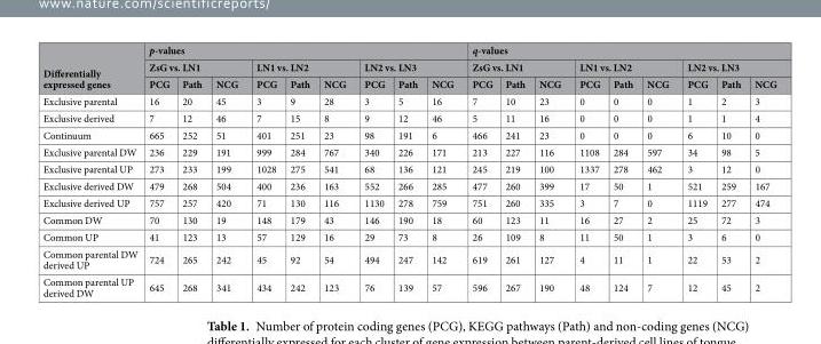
<table><thead><tr><td rowspan="3">Differentially expressed genes</td><td colspan="9">p-values</td><td colspan="9">q-values</td></tr><tr><td colspan="3">ZsG vs. LN1</td><td colspan="3">LN1 vs. LN2</td><td colspan="3">LN2 vs. LN3</td><td colspan="3">ZsG vs. LN1</td><td colspan="3">LN1 vs. LN2</td><td colspan="3">LN2 vs. LN3</td></tr><tr><td>PCG</td><td>Path</td><td>NCG</td><td>PCG</td><td>Path</td><td>NCG</td><td>PCG</td><td>Path</td><td>NCG</td><td>PCG</td><td>Path</td><td>NCG</td><td>PCG</td><td>Path</td><td>NCG</td><td>PCG</td><td>Path</td><td>NCG</td></tr></thead><tbody><tr><td>Exclusive parental</td><td>16</td><td>20</td><td>45</td><td>3</td><td>9</td><td>28</td><td>3</td><td>5</td><td>16</td><td>7</td><td>10</td><td>23</td><td>0</td><td>0</td><td>0</td><td>1</td><td>2</td><td>3</td></tr><tr><td>Exclusive derived</td><td>7</td><td>12</td><td>46</td><td>7</td><td>15</td><td>8</td><td>9</td><td>12</td><td>46</td><td>5</td><td>11</td><td>16</td><td>0</td><td>0</td><td>0</td><td>1</td><td>1</td><td>4</td></tr><tr><td>Continuum</td><td>665</td><td>252</td><td>51</td><td>401</td><td>251</td><td>23</td><td>98</td><td>191</td><td>6</td><td>466</td><td>241</td><td>23</td><td>0</td><td>0</td><td>0</td><td>6</td><td>10</td><td>0</td></tr><tr><td>Exclusive parental DW</td><td>236</td><td>229</td><td>191</td><td>999</td><td>284</td><td>767</td><td>340</td><td>226</td><td>171</td><td>213</td><td>227</td><td>116</td><td>1108</td><td>284</td><td>597</td><td>34</td><td>98</td><td>5</td></tr><tr><td>Exclusive parental UP</td><td>273</td><td>233</td><td>199</td><td>1028</td><td>275</td><td>541</td><td>68</td><td>136</td><td>121</td><td>245</td><td>219</td><td>100</td><td>1337</td><td>278</td><td>462</td><td>3</td><td>12</td><td>0</td></tr><tr><td>Exclusive derived DW</td><td>479</td><td>268</td><td>504</td><td>400</td><td>236</td><td>163</td><td>552</td><td>266</td><td>285</td><td>477</td><td>260</td><td>399</td><td>17</td><td>50</td><td>1</td><td>521</td><td>259</td><td>167</td></tr><tr><td>Exclusive derived UP</td><td>757</td><td>257</td><td>420</td><td>71</td><td>130</td><td>116</td><td>1130</td><td>278</td><td>759</td><td>751</td><td>260</td><td>335</td><td>3</td><td>7</td><td>0</td><td>1119</td><td>277</td><td>474</td></tr><tr><td>Common DW</td><td>70</td><td>130</td><td>19</td><td>148</td><td>179</td><td>43</td><td>146</td><td>190</td><td>18</td><td>60</td><td>123</td><td>11</td><td>16</td><td>27</td><td>2</td><td>25</td><td>72</td><td>3</td></tr><tr><td>Common UP</td><td>41</td><td>123</td><td>13</td><td>57</td><td>129</td><td>16</td><td>29</td><td>73</td><td>8</td><td>26</td><td>109</td><td>8</td><td>11</td><td>50</td><td>1</td><td>3</td><td>6</td><td>0</td></tr><tr><td>Common parental DW derived UP</td><td>724</td><td>265</td><td>242</td><td>45</td><td>92</td><td>54</td><td>494</td><td>247</td><td>142</td><td>619</td><td>261</td><td>127</td><td>4</td><td>11</td><td>1</td><td>22</td><td>53</td><td>2</td></tr><tr><td>Common parental UP derived DW</td><td>645</td><td>268</td><td>341</td><td>434</td><td>242</td><td>123</td><td>76</td><td>139</td><td>57</td><td>596</td><td>267</td><td>190</td><td>48</td><td>124</td><td>7</td><td>12</td><td>45</td><td>2</td></tr></tbody></table>